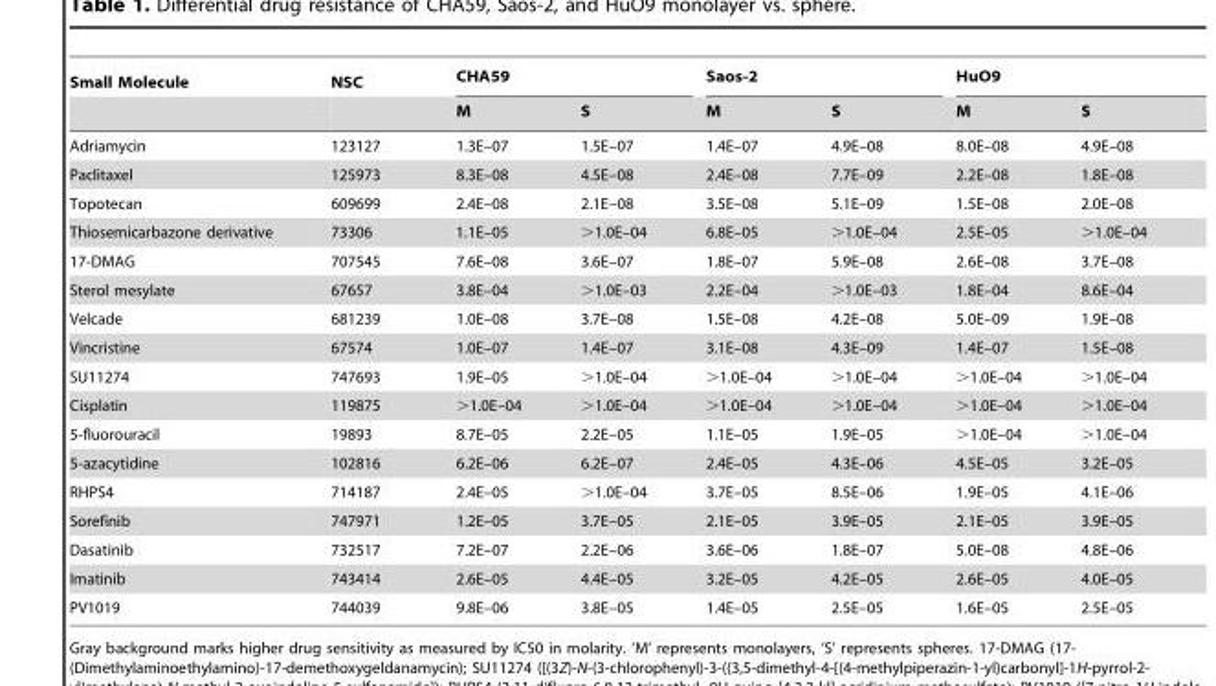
<table><thead><tr><td rowspan="2">Small Molecule</td><td rowspan="2">NSC</td><td colspan="2">CHA59</td><td colspan="2">Saos-2</td><td colspan="2">HuO9</td></tr><tr><td>M</td><td>S</td><td>M</td><td>S</td><td>M</td><td>S</td></tr></thead><tbody><tr><td>Adriamycin</td><td>123127</td><td>1.3E–07</td><td>1.5E–07</td><td>1.4E–07</td><td>4.9E–08</td><td>8.0E–08</td><td>4.9E–08</td></tr><tr><td>Paclitaxel</td><td>125973</td><td>8.3E–08</td><td>4.5E–08</td><td>2.4E–08</td><td>7.7E–09</td><td>2.2E–08</td><td>1.8E–08</td></tr><tr><td>Topotecan</td><td>609699</td><td>2.4E–08</td><td>2.1E–08</td><td>3.5E–08</td><td>5.1E–09</td><td>1.5E–08</td><td>2.0E–08</td></tr><tr><td>Thiosemicarbazone derivative</td><td>73306</td><td>1.1E–05</td><td>&gt;1.0E–04</td><td>6.8E–05</td><td>&gt;1.0E–04</td><td>2.5E–05</td><td>&gt;1.0E–04</td></tr><tr><td>17-DMAG</td><td>707545</td><td>7.6E–08</td><td>3.6E–07</td><td>1.8E–07</td><td>5.9E–08</td><td>2.6E–08</td><td>3.7E–08</td></tr><tr><td>Sterol mesylate</td><td>67657</td><td>3.8E–04</td><td>&gt;1.0E–03</td><td>2.2E–04</td><td>&gt;1.0E–03</td><td>1.8E–04</td><td>8.6E–04</td></tr><tr><td>Velcade</td><td>681239</td><td>1.0E–08</td><td>3.7E–08</td><td>1.5E–08</td><td>4.2E–08</td><td>5.0E–09</td><td>1.9E–08</td></tr><tr><td>Vincristine</td><td>67574</td><td>1.0E–07</td><td>1.4E–07</td><td>3.1E–08</td><td>4.3E–09</td><td>1.4E–07</td><td>1.5E–08</td></tr><tr><td>SU11274</td><td>747693</td><td>1.9E–05</td><td>&gt;1.0E–04</td><td>&gt;1.0E–04</td><td>&gt;1.0E–04</td><td>&gt;1.0E–04</td><td>&gt;1.0E–04</td></tr><tr><td>Cisplatin</td><td>119875</td><td>&gt;1.0E–04</td><td>&gt;1.0E–04</td><td>&gt;1.0E–04</td><td>&gt;1.0E–04</td><td>&gt;1.0E–04</td><td>&gt;1.0E–04</td></tr><tr><td>5-fluorouracil</td><td>19893</td><td>8.7E–05</td><td>2.2E–05</td><td>1.1E–05</td><td>1.9E–05</td><td>&gt;1.0E–04</td><td>&gt;1.0E–04</td></tr><tr><td>5-azacytidine</td><td>102816</td><td>6.2E–06</td><td>6.2E–07</td><td>2.4E–05</td><td>4.3E–06</td><td>4.5E–05</td><td>3.2E–05</td></tr><tr><td>RHPS4</td><td>714187</td><td>2.4E–05</td><td>&gt;1.0E–04</td><td>3.7E–05</td><td>8.5E–06</td><td>1.9E–05</td><td>4.1E–06</td></tr><tr><td>Sorefinib</td><td>747971</td><td>1.2E–05</td><td>3.7E–05</td><td>2.1E–05</td><td>3.9E–05</td><td>2.1E–05</td><td>3.9E–05</td></tr><tr><td>Dasatinib</td><td>732517</td><td>7.2E–07</td><td>2.2E–06</td><td>3.6E–06</td><td>1.8E–07</td><td>5.0E–08</td><td>4.8E–06</td></tr><tr><td>Imatinib</td><td>743414</td><td>2.6E–05</td><td>4.4E–05</td><td>3.2E–05</td><td>4.2E–05</td><td>2.6E–05</td><td>4.0E–05</td></tr><tr><td>PV1019</td><td>744039</td><td>9.8E–06</td><td>3.8E–05</td><td>1.4E–05</td><td>2.5E–05</td><td>1.6E–05</td><td>2.5E–05</td></tr></tbody></table>